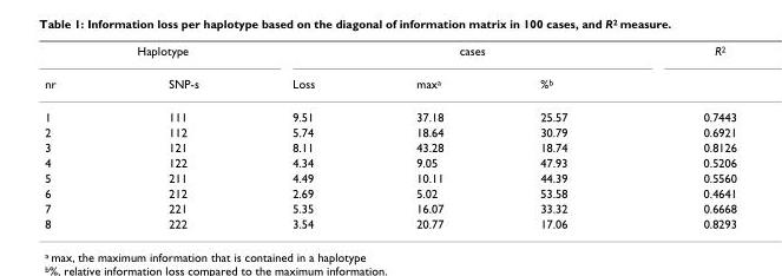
<table><thead><tr><td colspan="2">Haplotype</td><td colspan="3">cases</td><td rowspan="2">R2</td></tr><tr><td>nr</td><td>SNP-s</td><td>Loss</td><td>maxa</td><td>%b</td></tr></thead><tbody><tr><td>1</td><td>111</td><td>9.51</td><td>37.18</td><td>25.57</td><td>0.7443</td></tr><tr><td>2</td><td>112</td><td>5.74</td><td>18.64</td><td>30.79</td><td>0.6921</td></tr><tr><td>3</td><td>121</td><td>8.11</td><td>43.28</td><td>18.74</td><td>0.8126</td></tr><tr><td>4</td><td>122</td><td>4.34</td><td>9.05</td><td>47.93</td><td>0.5206</td></tr><tr><td>5</td><td>211</td><td>4.49</td><td>10.11</td><td>44.39</td><td>0.5560</td></tr><tr><td>6</td><td>212</td><td>2.69</td><td>5.02</td><td>53.58</td><td>0.4641</td></tr><tr><td>7</td><td>221</td><td>5.35</td><td>16.07</td><td>33.32</td><td>0.6668</td></tr><tr><td>8</td><td>222</td><td>3.54</td><td>20.77</td><td>17.06</td><td>0.8293</td></tr></tbody></table>